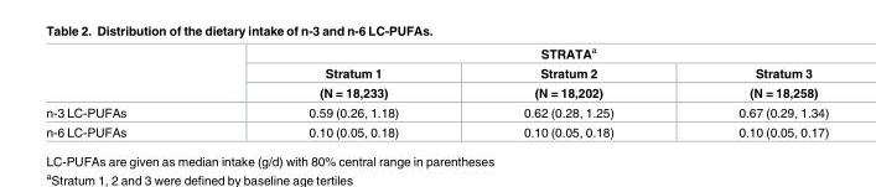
<table><thead><tr><td rowspan="3"></td><td colspan="3">STRATA<sup>a</sup></td></tr><tr><td rowspan="2">Stratum 1 (N = 18,233)</td><td rowspan="2">Stratum 2 (N = 18,202)</td><td rowspan="2">Stratum 3 (N = 18,258)</td></tr><tr></tr></thead><tbody><tr><td>n-3 LC-PUFAs</td><td>0.59 (0.26, 1.18)</td><td>0.62 (0.28, 1.25)</td><td>0.67 (0.29, 1.34)</td></tr><tr><td>n-6 LC-PUFAs</td><td>0.10 (0.05, 0.18)</td><td>0.10 (0.05, 0.18)</td><td>0.10 (0.05, 0.17)</td></tr></tbody></table>